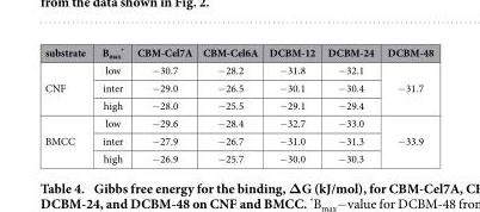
<table><thead><tr><td>substrate</td><td>B<sub>max</sub> *</td><td>CBM-Cel7A</td><td>CBM-Cel6A</td><td>DCBM-12</td><td>DCBM-24</td><td>DCBM-48</td></tr></thead><tbody><tr><td rowspan="3">CNF</td><td>low</td><td>− 30.7</td><td>− 28.2</td><td>− 31.8</td><td>− 32.1</td><td rowspan="3">− 31.7</td></tr><tr><td>inter</td><td>− 29.0</td><td>− 26.5</td><td>− 30.1</td><td>− 30.4</td></tr><tr><td>high</td><td>− 28.0</td><td>− 25.5</td><td>− 29.1</td><td>− 29.4</td></tr><tr><td rowspan="3">BMCC</td><td>low</td><td>− 29.6</td><td>− 28.4</td><td>− 32.7</td><td>− 33.0</td><td rowspan="3">− 33.9</td></tr><tr><td>inter</td><td>− 27.9</td><td>− 26.7</td><td>− 31.0</td><td>− 31.3</td></tr><tr><td>high</td><td>− 26.9</td><td>− 25.7</td><td>− 30.0</td><td>− 30.3</td></tr></tbody></table>